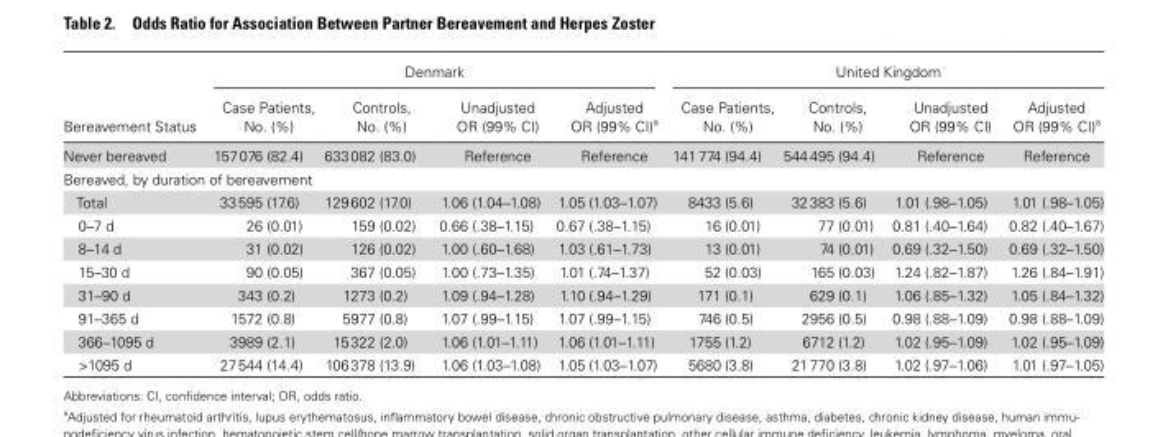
<table><thead><tr><td rowspan="2">Bereavement Status</td><td colspan="4">Denmark</td><td colspan="4">United Kingdom</td></tr><tr><td>Case Patients, No. (%)</td><td>Controls, No. (%)</td><td>Unadjusted OR (99% CI)</td><td>Adjusted OR (99% CI)<sup>a</sup></td><td>Case Patients, No. (%)</td><td>Controls, No. (%)</td><td>Unadjusted OR (99% CI)</td><td>Adjusted OR (99% CI)<sup>a</sup></td></tr></thead><tbody><tr><td>Never bereaved</td><td>157 076 (82.4)</td><td>633 082 (83.0)</td><td>Reference</td><td>Reference</td><td>141 774 (94.4)</td><td>544 495 (94.4)</td><td>Reference</td><td>Reference</td></tr><tr><td colspan="9">Bereaved, by duration of bereavement</td></tr><tr><td>Total</td><td>33 595 (17.6)</td><td>129 602 (17.0)</td><td>1.06 (1.04–1.08)</td><td>1.05 (1.03–1.07)</td><td>8433 (5.6)</td><td>32 383 (5.6)</td><td>1.01 (.98–1.05)</td><td>1.01 (.98–1.05)</td></tr><tr><td>0–7 d</td><td>26 (0.01)</td><td>159 (0.02)</td><td>0.66 (.38–1.15)</td><td>0.67 (.38–1.15)</td><td>16 (0.01)</td><td>77 (0.01)</td><td>0.81 (.40–1.64)</td><td>0.82 (.40–1.67)</td></tr><tr><td>8–14 d</td><td>31 (0.02)</td><td>126 (0.02)</td><td>1.00 (.60–1.68)</td><td>1.03 (.61–1.73)</td><td>13 (0.01)</td><td>74 (0.01)</td><td>0.69 (.32–1.50)</td><td>0.69 (.32–1.50)</td></tr><tr><td>15–30 d</td><td>90 (0.05)</td><td>367 (0.05)</td><td>1.00 (.73–1.35)</td><td>1.01 (.74–1.37)</td><td>52 (0.03)</td><td>165 (0.03)</td><td>1.24 (.82–1.87)</td><td>1.26 (.84–1.91)</td></tr><tr><td>31–90 d</td><td>343 (0.2)</td><td>1273 (0.2)</td><td>1.09 (.94–1.28)</td><td>1.10 (.94–1.29)</td><td>171 (0.1)</td><td>629 (0.1)</td><td>1.06 (.85–1.32)</td><td>1.05 (.84–1.32)</td></tr><tr><td>91–365 d</td><td>1572 (0.8)</td><td>5977 (0.8)</td><td>1.07 (.99–1.15)</td><td>1.07 (.99–1.15)</td><td>746 (0.5)</td><td>2956 (0.5)</td><td>0.98 (.88–1.09)</td><td>0.98 (.88–1.09)</td></tr><tr><td>366–1095 d</td><td>3989 (2.1)</td><td>15 322 (2.0)</td><td>1.06 (1.01–1.11)</td><td>1.06 (1.01–1.11)</td><td>1755 (1.2)</td><td>6712 (1.2)</td><td>1.02 (.95–1.09)</td><td>1.02 (.95–1.09)</td></tr><tr><td>&gt;1095 d</td><td>27 544 (14.4)</td><td>106 378 (13.9)</td><td>1.06 (1.03–1.08)</td><td>1.05 (1.03–1.07)</td><td>5680 (3.8)</td><td>21 770 (3.8)</td><td>1.02 (.97–1.06)</td><td>1.01 (.97–1.05)</td></tr></tbody></table>